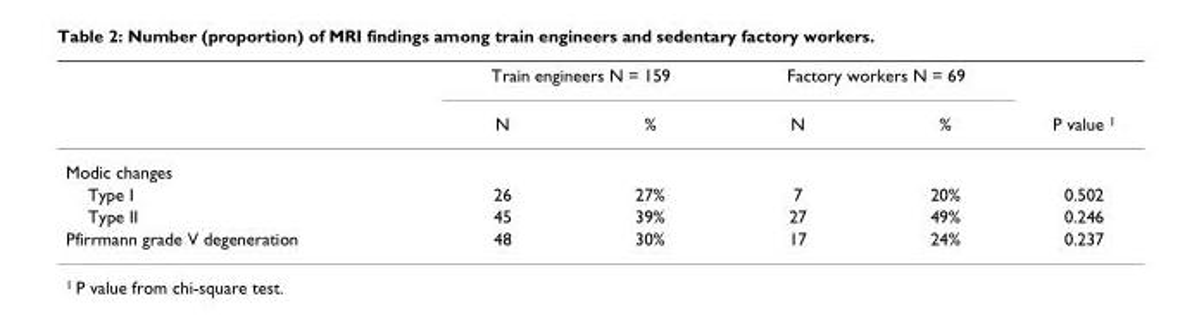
<table><thead><tr><td rowspan="2"></td><td colspan="2">Train engineers N = 159</td><td colspan="2">Factory workers N = 69</td><td rowspan="2">P value <sup>1</sup></td></tr><tr><td>N</td><td>%</td><td>N</td><td>%</td></tr></thead><tbody><tr><td colspan="6">Modic changes</td></tr><tr><td>Type I</td><td>26</td><td>27%</td><td>7</td><td>20%</td><td>0.502</td></tr><tr><td>Type II</td><td>45</td><td>39%</td><td>27</td><td>49%</td><td>0.246</td></tr><tr><td>Pfirrmann grade V degeneration</td><td>48</td><td>30%</td><td>17</td><td>24%</td><td>0.237</td></tr></tbody></table>